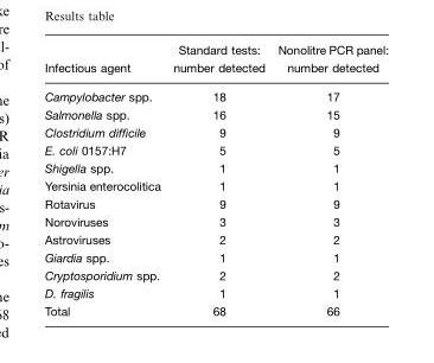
<table><thead><tr><td>Infectious agent</td><td>Standard tests: number detected</td><td>Nonolitre PCR panel: number detected</td></tr></thead><tbody><tr><td>Campylobacter spp.</td><td>18</td><td>17</td></tr><tr><td>Salmonella spp.</td><td>16</td><td>15</td></tr><tr><td>Clostridium difficile</td><td>9</td><td>9</td></tr><tr><td>E. coli 0157:H7</td><td>5</td><td>5</td></tr><tr><td>Shigella spp.</td><td>1</td><td>1</td></tr><tr><td>Yersinia enterocolitica</td><td>1</td><td>1</td></tr><tr><td>Rotavirus</td><td>9</td><td>9</td></tr><tr><td>Noroviruses</td><td>3</td><td>3</td></tr><tr><td>Astroviruses</td><td>2</td><td>2</td></tr><tr><td>Giardia spp.</td><td>1</td><td>1</td></tr><tr><td>Cryptosporidium spp.</td><td>2</td><td>2</td></tr><tr><td>D. fragilis</td><td>1</td><td>1</td></tr><tr><td>Total</td><td>68</td><td>66</td></tr></tbody></table>